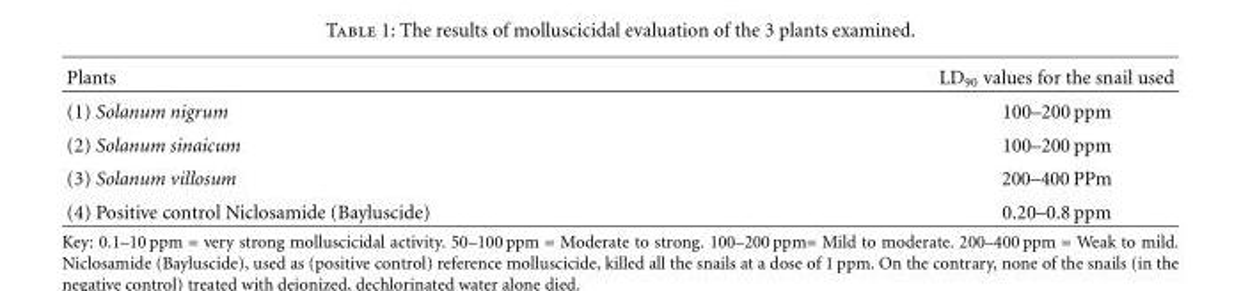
<table><thead><tr><td>Plants</td><td>LD<sub>90</sub> values for the snail used</td></tr></thead><tbody><tr><td>(1) Solanum nigrum</td><td>100–200 ppm</td></tr><tr><td>(2) Solanum sinaicum</td><td>100–200 ppm</td></tr><tr><td>(3) Solanum villosum</td><td>200–400 PPm</td></tr><tr><td>(4) Positive control Niclosamide (Bayluscide)</td><td>0.20–0.8 ppm</td></tr></tbody></table>